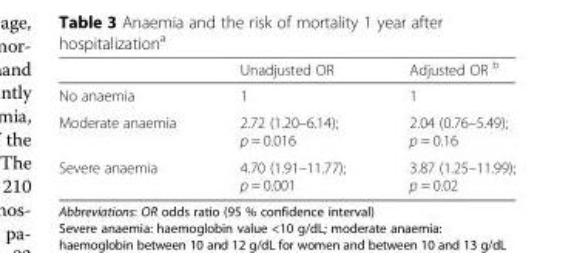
<table><thead><tr><td></td><td>Unadjusted OR</td><td>Adjusted OR <sup>b</sup></td></tr></thead><tbody><tr><td>No anaemia</td><td>1</td><td>1</td></tr><tr><td>Moderate anaemia</td><td>2.72 (1.20–6.14); p = 0.016</td><td>2.04 (0.76–5.49); p = 0.16</td></tr><tr><td>Severe anaemia</td><td>4.70 (1.91–11.77); p = 0.001</td><td>3.87 (1.25–11.99); p = 0.02</td></tr></tbody></table>